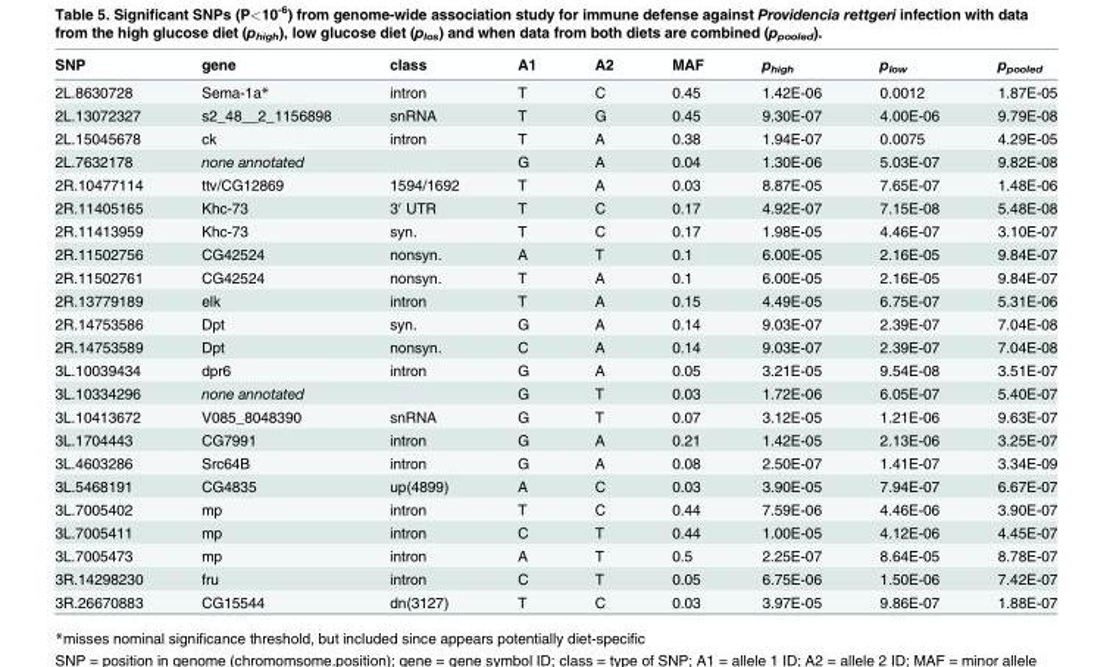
<table><thead><tr><td>SNP</td><td>gene</td><td>class</td><td>A1</td><td>A2</td><td>MAF</td><td>p<sub>high</sub></td><td>p<sub>low</sub></td><td>p<sub>pooled</sub></td></tr></thead><tbody><tr><td>2L.8630728</td><td>Sema-1a*</td><td>intron</td><td>T</td><td>C</td><td>0.45</td><td>1.42E-06</td><td>0.0012</td><td>1.87E-05</td></tr><tr><td>2L.13072327</td><td>s2_48__2_1156898</td><td>snRNA</td><td>T</td><td>G</td><td>0.45</td><td>9.30E-07</td><td>4.00E-06</td><td>9.79E-08</td></tr><tr><td>2L.15045678</td><td>ck</td><td>intron</td><td>T</td><td>A</td><td>0.38</td><td>1.94E-07</td><td>0.0075</td><td>4.29E-05</td></tr><tr><td>2L.7632178</td><td>none annotated</td><td></td><td>G</td><td>A</td><td>0.04</td><td>1.30E-06</td><td>5.03E-07</td><td>9.82E-08</td></tr><tr><td>2R.10477114</td><td>ttv/CG12869</td><td>1594/1692</td><td>T</td><td>A</td><td>0.03</td><td>8.87E-05</td><td>7.65E-07</td><td>1.48E-06</td></tr><tr><td>2R.11405165</td><td>Khc-73</td><td>3′ UTR</td><td>T</td><td>C</td><td>0.17</td><td>4.92E-07</td><td>7.15E-08</td><td>5.48E-08</td></tr><tr><td>2R.11413959</td><td>Khc-73</td><td>syn.</td><td>T</td><td>C</td><td>0.17</td><td>1.98E-05</td><td>4.46E-07</td><td>3.10E-07</td></tr><tr><td>2R.11502756</td><td>CG42524</td><td>nonsyn.</td><td>A</td><td>T</td><td>0.1</td><td>6.00E-05</td><td>2.16E-05</td><td>9.84E-07</td></tr><tr><td>2R.11502761</td><td>CG42524</td><td>nonsyn.</td><td>T</td><td>A</td><td>0.1</td><td>6.00E-05</td><td>2.16E-05</td><td>9.84E-07</td></tr><tr><td>2R.13779189</td><td>elk</td><td>intron</td><td>T</td><td>A</td><td>0.15</td><td>4.49E-05</td><td>6.75E-07</td><td>5.31E-06</td></tr><tr><td>2R.14753586</td><td>Dpt</td><td>syn.</td><td>G</td><td>A</td><td>0.14</td><td>9.03E-07</td><td>2.39E-07</td><td>7.04E-08</td></tr><tr><td>2R.14753589</td><td>Dpt</td><td>nonsyn.</td><td>C</td><td>A</td><td>0.14</td><td>9.03E-07</td><td>2.39E-07</td><td>7.04E-08</td></tr><tr><td>3L.10039434</td><td>dpr6</td><td>intron</td><td>G</td><td>A</td><td>0.05</td><td>3.21E-05</td><td>9.54E-08</td><td>3.51E-07</td></tr><tr><td>3L.10334296</td><td>none annotated</td><td></td><td>G</td><td>T</td><td>0.03</td><td>1.72E-06</td><td>6.05E-07</td><td>5.40E-07</td></tr><tr><td>3L.10413672</td><td>V085_8048390</td><td>snRNA</td><td>G</td><td>T</td><td>0.07</td><td>3.12E-05</td><td>1.21E-06</td><td>9.63E-07</td></tr><tr><td>3L.1704443</td><td>CG7991</td><td>intron</td><td>G</td><td>A</td><td>0.21</td><td>1.42E-05</td><td>2.13E-06</td><td>3.25E-07</td></tr><tr><td>3L.4603286</td><td>Src64B</td><td>intron</td><td>G</td><td>A</td><td>0.08</td><td>2.50E-07</td><td>1.41E-07</td><td>3.34E-09</td></tr><tr><td>3L.5468191</td><td>CG4835</td><td>up(4899)</td><td>A</td><td>C</td><td>0.03</td><td>3.90E-05</td><td>7.94E-07</td><td>6.67E-07</td></tr><tr><td>3L.7005402</td><td>mp</td><td>intron</td><td>T</td><td>C</td><td>0.44</td><td>7.59E-06</td><td>4.46E-06</td><td>3.90E-07</td></tr><tr><td>3L.7005411</td><td>mp</td><td>intron</td><td>C</td><td>T</td><td>0.44</td><td>1.00E-05</td><td>4.12E-06</td><td>4.45E-07</td></tr><tr><td>3L.7005473</td><td>mp</td><td>intron</td><td>A</td><td>T</td><td>0.5</td><td>2.25E-07</td><td>8.64E-05</td><td>8.78E-07</td></tr><tr><td>3R.14298230</td><td>fru</td><td>intron</td><td>C</td><td>T</td><td>0.05</td><td>6.75E-06</td><td>1.50E-06</td><td>7.42E-07</td></tr><tr><td>3R.26670883</td><td>CG15544</td><td>dn(3127)</td><td>T</td><td>C</td><td>0.03</td><td>3.97E-05</td><td>9.86E-07</td><td>1.88E-07</td></tr></tbody></table>